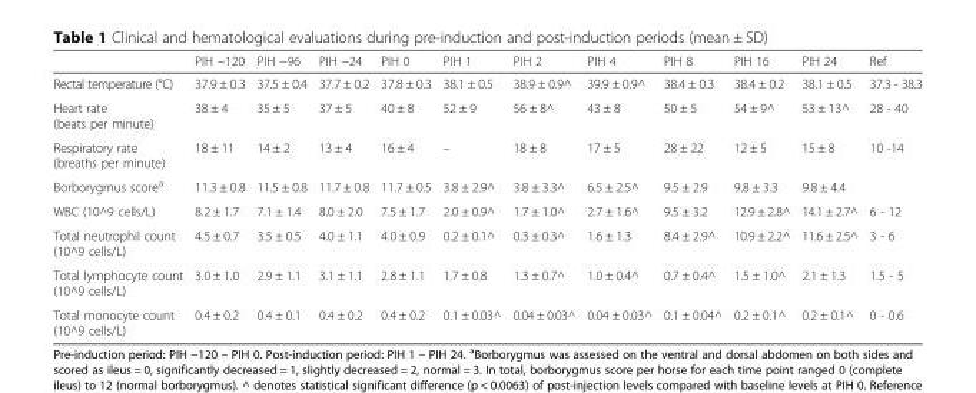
<table><thead><tr><td></td><td>PIH −120</td><td>PIH −96</td><td>PIH −24</td><td>PIH 0</td><td>PIH 1</td><td>PIH 2</td><td>PIH 4</td><td>PIH 8</td><td>PIH 16</td><td>PIH 24</td><td>Ref</td></tr></thead><tbody><tr><td>Rectal temperature (°C)</td><td>37.9 ± 0.3</td><td>37.5 ± 0.4</td><td>37.7 ± 0.2</td><td>37.8 ± 0.3</td><td>38.1 ± 0.5</td><td>38.9 ± 0.9^</td><td>39.9 ± 0.9^</td><td>38.4 ± 0.3</td><td>38.4 ± 0.2</td><td>38.1 ± 0.5</td><td>37.3 - 38.3</td></tr><tr><td>Heart rate (beats per minute)</td><td>38 ± 4</td><td>35 ± 5</td><td>37 ± 5</td><td>40 ± 8</td><td>52 ± 9</td><td>56 ± 8^</td><td>43 ± 8</td><td>50 ± 5</td><td>54 ± 9^</td><td>53 ± 13^</td><td>28 - 40</td></tr><tr><td>Respiratory rate (breaths per minute)</td><td>18 ± 11</td><td>14 ± 2</td><td>13 ± 4</td><td>16 ± 4</td><td>–</td><td>18 ± 8</td><td>17 ± 5</td><td>28 ± 22</td><td>12 ± 5</td><td>15 ± 8</td><td>10 -14</td></tr><tr><td>Borborygmus score<sup>a</sup></td><td>11.3 ± 0.8</td><td>11.5 ± 0.8</td><td>11.7 ± 0.8</td><td>11.7 ± 0.5</td><td>3.8 ± 2.9^</td><td>3.8 ± 3.3^</td><td>6.5 ± 2.5^</td><td>9.5 ± 2.9</td><td>9.8 ± 3.3</td><td>9.8 ± 4.4</td><td></td></tr><tr><td>WBC (10^9 cells/L)</td><td>8.2 ± 1.7</td><td>7.1 ± 1.4</td><td>8.0 ± 2.0</td><td>7.5 ± 1.7</td><td>2.0 ± 0.9^</td><td>1.7 ± 1.0^</td><td>2.7 ± 1.6^</td><td>9.5 ± 3.2</td><td>12.9 ± 2.8^</td><td>14.1 ± 2.7^</td><td>6 - 12</td></tr><tr><td>Total neutrophil count (10^9 cells/L)</td><td>4.5 ± 0.7</td><td>3.5 ± 0.5</td><td>4.0 ± 1.1</td><td>4.0 ± 0.9</td><td>0.2 ± 0.1^</td><td>0.3 ± 0.3^</td><td>1.6 ± 1.3</td><td>8.4 ± 2.9^</td><td>10.9 ± 2.2^</td><td>11.6 ± 2.5^</td><td>3 - 6</td></tr><tr><td>Total lymphocyte count (10^9 cells/L)</td><td>3.0 ± 1.0</td><td>2.9 ± 1.1</td><td>3.1 ± 1.1</td><td>2.8 ± 1.1</td><td>1.7 ± 0.8</td><td>1.3 ± 0.7^</td><td>1.0 ± 0.4^</td><td>0.7 ± 0.4^</td><td>1.5 ± 1.0^</td><td>2.1 ± 1.3</td><td>1.5 - 5</td></tr><tr><td>Total monocyte count (10^9 cells/L)</td><td>0.4 ± 0.2</td><td>0.4 ± 0.1</td><td>0.4 ± 0.2</td><td>0.4 ± 0.2</td><td>0.1 ± 0.03^</td><td>0.04 ± 0.03^</td><td>0.04 ± 0.03^</td><td>0.1 ± 0.04^</td><td>0.2 ± 0.1^</td><td>0.2 ± 0.1^</td><td>0 - 0.6</td></tr></tbody></table>